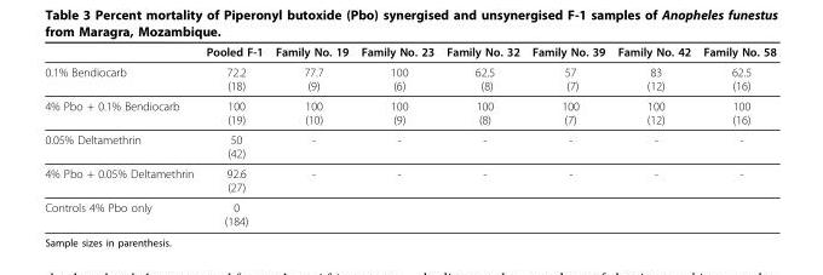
<table><thead><tr><td></td><td>Pooled F-1</td><td>Family No. 19</td><td>Family No. 23</td><td>Family No. 32</td><td>Family No. 39</td><td>Family No. 42</td><td>Family No. 58</td></tr></thead><tbody><tr><td>0.1% Bendiocarb</td><td>72.2 (18)</td><td>77.7 (9)</td><td>100 (6)</td><td>62.5 (8)</td><td>57 (7)</td><td>83 (12)</td><td>62.5 (16)</td></tr><tr><td>4% Pbo + 0.1% Bendiocarb</td><td>100 (19)</td><td>100 (10)</td><td>100 (9)</td><td>100 (8)</td><td>100 (7)</td><td>100 (12)</td><td>100 (16)</td></tr><tr><td>0.05% Deltamethrin</td><td>50 (42)</td><td>-</td><td>-</td><td>-</td><td>-</td><td>-</td><td>-</td></tr><tr><td>4% Pbo + 0.05% Deltamethrin</td><td>92.6 (27)</td><td>-</td><td>-</td><td>-</td><td>-</td><td>-</td><td>-</td></tr><tr><td>Controls 4% Pbo only</td><td>0 (184)</td><td></td><td></td><td></td><td></td><td></td><td></td></tr></tbody></table>